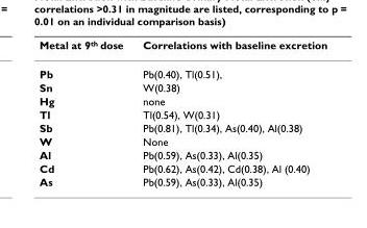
<table><thead><tr><td>Metal at 9<sup>th</sup> dose</td><td>Correlations with baseline excretion</td></tr></thead><tbody><tr><td>Pb</td><td>Pb(0.40), Tl(0.51),</td></tr><tr><td>Sn</td><td>W(0.38)</td></tr><tr><td>Hg</td><td>none</td></tr><tr><td>Tl</td><td>Tl(0.54), W(0.31)</td></tr><tr><td>Sb</td><td>Pb(0.81), Tl(0.34), As(0.40), Al(0.38)</td></tr><tr><td>W</td><td>None</td></tr><tr><td>Al</td><td>Pb(0.59), As(0.33), Al(0.35)</td></tr><tr><td>Cd</td><td>Pb(0.62), As(0.42), Cd(0.38), Al (0.40)</td></tr><tr><td>As</td><td>Pb(0.59), As(0.33), Al(0.35)</td></tr></tbody></table>